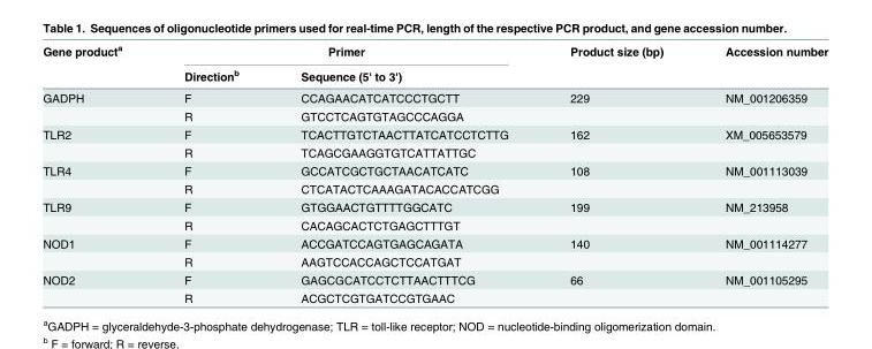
<table><thead><tr><td rowspan="2">Gene product<sup>a</sup></td><td colspan="2">Primer</td><td rowspan="2">Product size (bp)</td><td rowspan="2">Accession number</td></tr><tr><td>Direction<sup>b</sup></td><td>Sequence (5&#x27; to 3&#x27;)</td></tr></thead><tbody><tr><td rowspan="2">GADPH</td><td>F</td><td>CCAGAACATCATCCCTGCTT</td><td>229</td><td>NM_001206359</td></tr><tr><td>R</td><td>GTCCTCAGTGTAGCCCAGGA</td><td></td><td></td></tr><tr><td rowspan="2">TLR2</td><td>F</td><td>TCACTTGTCTAACTTATCATCCTCTTG</td><td>162</td><td>XM_005653579</td></tr><tr><td>R</td><td>TCAGCGAAGGTGTCATTATTGC</td><td></td><td></td></tr><tr><td rowspan="2">TLR4</td><td>F</td><td>GCCATCGCTGCTAACATCATC</td><td>108</td><td>NM_001113039</td></tr><tr><td>R</td><td>CTCATACTCAAAGATACACCATCGG</td><td></td><td></td></tr><tr><td rowspan="2">TLR9</td><td>F</td><td>GTGGAACTGTTTTGGCATC</td><td>199</td><td>NM_213958</td></tr><tr><td>R</td><td>CACAGCACTCTGAGCTTTGT</td><td></td><td></td></tr><tr><td rowspan="2">NOD1</td><td>F</td><td>ACCGATCCAGTGAGCAGATA</td><td>140</td><td>NM_001114277</td></tr><tr><td>R</td><td>AAGTCCACCAGCTCCATGAT</td><td></td><td></td></tr><tr><td rowspan="2">NOD2</td><td>F</td><td>GAGCGCATCCTCTTAACTTTCG</td><td>66</td><td>NM_001105295</td></tr><tr><td>R</td><td>ACGCTCGTGATCCGTGAAC</td><td></td><td></td></tr></tbody></table>